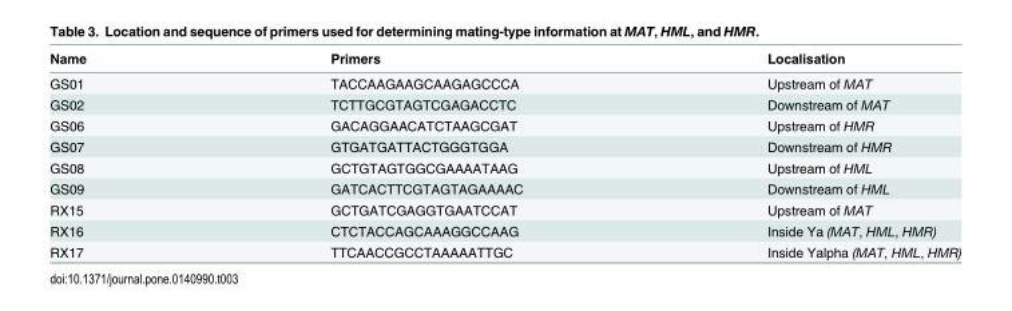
<table><thead><tr><td>Name</td><td>Primers</td><td>Localisation</td></tr></thead><tbody><tr><td>GS01</td><td>TACCAAGAAGCAAGAGCCCA</td><td>Upstream of MAT</td></tr><tr><td>GS02</td><td>TCTTGCGTAGTCGAGACCTC</td><td>Downstream of MAT</td></tr><tr><td>GS06</td><td>GACAGGAACATCTAAGCGAT</td><td>Upstream of HMR</td></tr><tr><td>GS07</td><td>GTGATGATTACTGGGTGGA</td><td>Downstream of HMR</td></tr><tr><td>GS08</td><td>GCTGTAGTGGCGAAAATAAG</td><td>Upstream of HML</td></tr><tr><td>GS09</td><td>GATCACTTCGTAGTAGAAAAC</td><td>Downstream of HML</td></tr><tr><td>RX15</td><td>GCTGATCGAGGTGAATCCAT</td><td>Upstream of MAT</td></tr><tr><td>RX16</td><td>CTCTACCAGCAAAGGCCAAG</td><td>Inside Ya (MAT, HML, HMR)</td></tr><tr><td>RX17</td><td>TTCAACCGCCTAAAAATTGC</td><td>Inside Yalpha (MAT, HML, HMR)</td></tr></tbody></table>